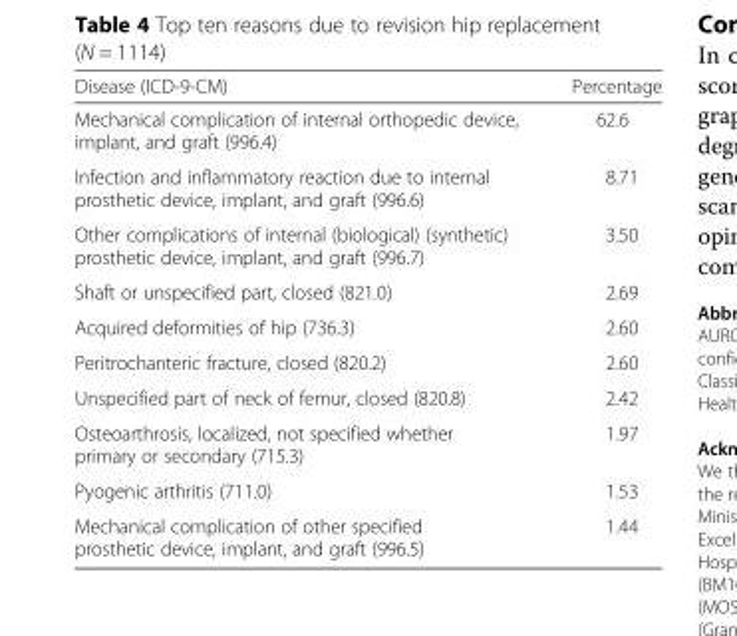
<table><thead><tr><td>Disease (ICD-9-CM)</td><td>Percentage</td></tr></thead><tbody><tr><td>Mechanical complication of internal orthopedic device, implant, and graft (996.4)</td><td>62.6</td></tr><tr><td>Infection and inflammatory reaction due to internal prosthetic device, implant, and graft (996.6)</td><td>8.71</td></tr><tr><td>Other complications of internal (biological) (synthetic) prosthetic device, implant, and graft (996.7)</td><td>3.50</td></tr><tr><td>Shaft or unspecified part, closed (821.0)</td><td>2.69</td></tr><tr><td>Acquired deformities of hip (736.3)</td><td>2.60</td></tr><tr><td>Peritrochanteric fracture, closed (820.2)</td><td>2.60</td></tr><tr><td>Unspecified part of neck of femur, closed (820.8)</td><td>2.42</td></tr><tr><td>Osteoarthrosis, localized, not specified whether primary or secondary (715.3)</td><td>1.97</td></tr><tr><td>Pyogenic arthritis (711.0)</td><td>1.53</td></tr><tr><td>Mechanical complication of other specified prosthetic device, implant, and graft (996.5)</td><td>1.44</td></tr></tbody></table>